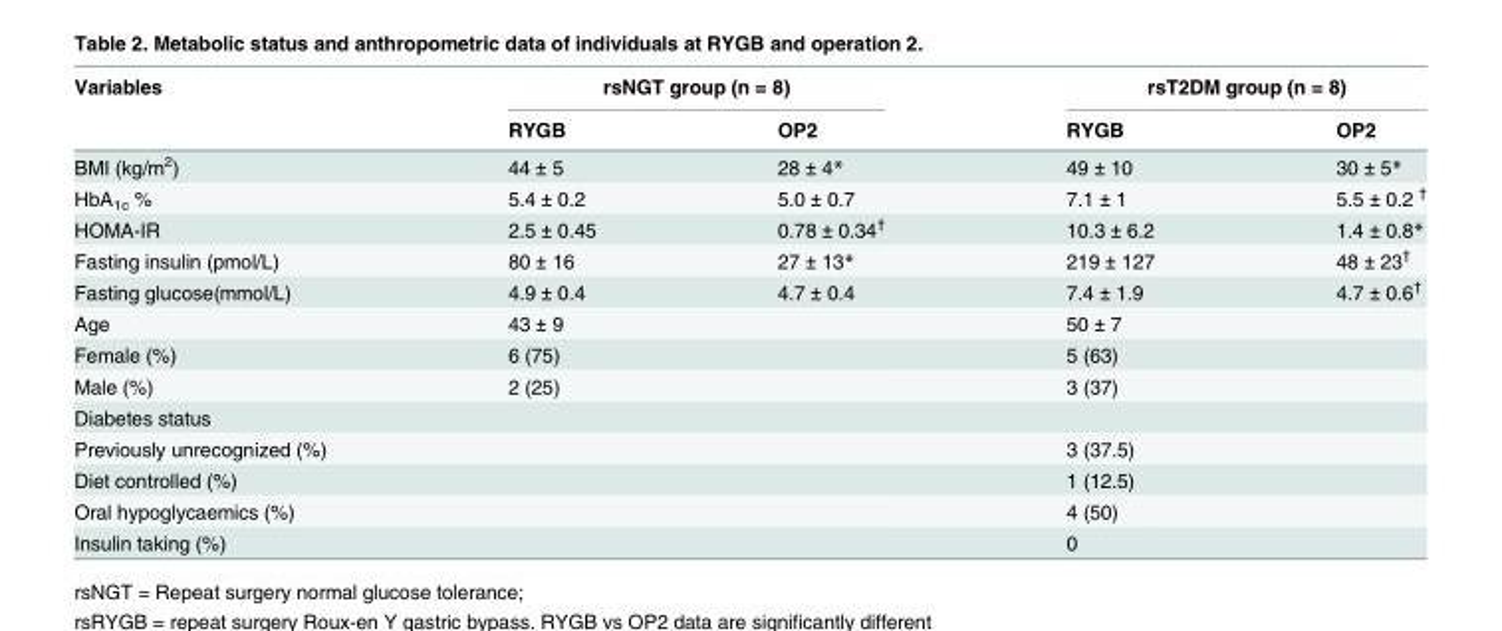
<table><thead><tr><td rowspan="2">Variables</td><td colspan="2">rsNGT group (n = 8)</td><td colspan="2">rsT2DM group (n = 8)</td></tr><tr><td>RYGB</td><td>OP2</td><td>RYGB</td><td>OP2</td></tr></thead><tbody><tr><td>BMI (kg/m<sup>2</sup>)</td><td>44 ± 5</td><td>28 ± 4*</td><td>49 ± 10</td><td>30 ± 5*</td></tr><tr><td>HbA<sub>1c</sub> %</td><td>5.4 ± 0.2</td><td>5.0 ± 0.7</td><td>7.1 ± 1</td><td>5.5 ± 0.2 <sup>†</sup></td></tr><tr><td>HOMA-IR</td><td>2.5 ± 0.45</td><td>0.78 ± 0.34<sup>†</sup></td><td>10.3 ± 6.2</td><td>1.4 ± 0.8*</td></tr><tr><td>Fasting insulin (pmol/L)</td><td>80 ± 16</td><td>27 ± 13*</td><td>219 ± 127</td><td>48 ± 23<sup>†</sup></td></tr><tr><td>Fasting glucose(mmol/L)</td><td>4.9 ± 0.4</td><td>4.7 ± 0.4</td><td>7.4 ± 1.9</td><td>4.7 ± 0.6<sup>†</sup></td></tr><tr><td>Age</td><td>43 ± 9</td><td></td><td>50 ± 7</td><td></td></tr><tr><td>Female (%)</td><td>6 (75)</td><td></td><td>5 (63)</td><td></td></tr><tr><td>Male (%)</td><td>2 (25)</td><td></td><td>3 (37)</td><td></td></tr><tr><td colspan="5">Diabetes status</td></tr><tr><td>Previously unrecognized (%)</td><td></td><td></td><td>3 (37.5)</td><td></td></tr><tr><td>Diet controlled (%)</td><td></td><td></td><td>1 (12.5)</td><td></td></tr><tr><td>Oral hypoglycaemics (%)</td><td></td><td></td><td>4 (50)</td><td></td></tr><tr><td>Insulin taking (%)</td><td></td><td></td><td>0</td><td></td></tr></tbody></table>